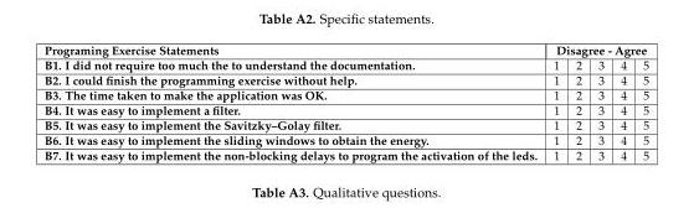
<table><thead><tr><td rowspan="2">Programing Exercise Statements B1. I did not require too much the to understand the documentation.</td><td colspan="5">Disagree - Agree</td></tr><tr><td>1</td><td>2</td><td>3</td><td>4</td><td>5</td></tr></thead><tbody><tr><td>B2. I could finish the programming exercise without help.</td><td>1</td><td>2</td><td>3</td><td>4</td><td>5</td></tr><tr><td>B3. The time taken to make the application was OK.</td><td>1</td><td>2</td><td>3</td><td>4</td><td>5</td></tr><tr><td>B4. It was easy to implement a filter.</td><td>1</td><td>2</td><td>3</td><td>4</td><td>5</td></tr><tr><td>B5. It was easy to implement the Savitzky–Golay filter.</td><td>1</td><td>2</td><td>3</td><td>4</td><td>5</td></tr><tr><td>B6. It was easy to implement the sliding windows to obtain the energy.</td><td>1</td><td>2</td><td>3</td><td>4</td><td>5</td></tr><tr><td>B7. It was easy to implement the non-blocking delays to program the activation of the leds.</td><td>1</td><td>2</td><td>3</td><td>4</td><td>5</td></tr></tbody></table>